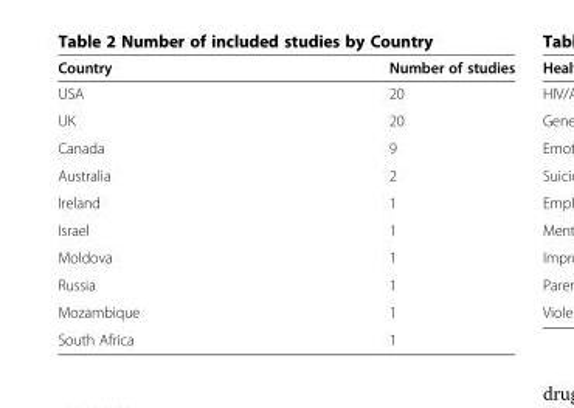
<table><thead><tr><td>Country</td><td>Number of studies</td></tr></thead><tbody><tr><td>USA</td><td>20</td></tr><tr><td>UK</td><td>20</td></tr><tr><td>Canada</td><td>9</td></tr><tr><td>Australia</td><td>2</td></tr><tr><td>Ireland</td><td>1</td></tr><tr><td>Israel</td><td>1</td></tr><tr><td>Moldova</td><td>1</td></tr><tr><td>Russia</td><td>1</td></tr><tr><td>Mozambique</td><td>1</td></tr><tr><td>South Africa</td><td>1</td></tr></tbody></table>